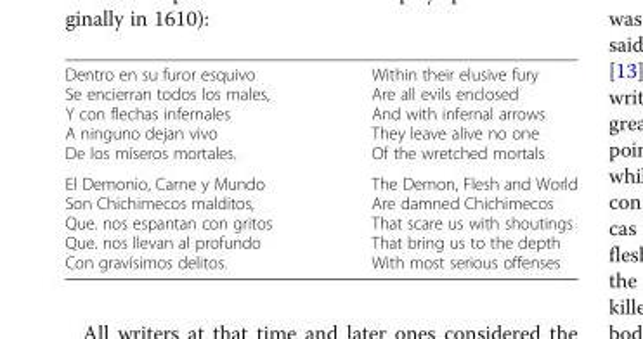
<table><tbody><tr><td>Dentro en su furor esquivo Se encierran todos los males, Y con flechas infernales A ninguno dejan vivo De los míseros mortales.</td><td>Within their elusive fury Are all evils enclosed And with infernal arrows They leave alive no one Of the wretched mortals</td></tr><tr><td>El Demonio, Carne y Mundo Son Chichimecos malditos, Que. nos espantan con gritos Que. nos llevan al profundo Con gravísimos delitos.</td><td>The Demon, Flesh and World Are damned Chichimecos That scare us with shoutings That bring us to the depth With most serious offenses</td></tr></tbody></table>